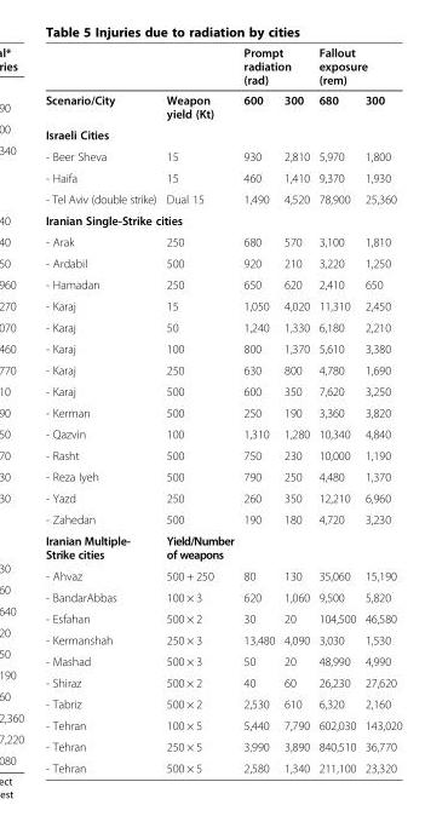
<table><thead><tr><td rowspan="2">Scenario/City</td><td rowspan="2">Weapon yield (Kt)</td><td colspan="2">Prompt radiation (rad)</td><td colspan="2">Fallout exposure (rem)</td></tr><tr><td>600</td><td>300</td><td>680</td><td>300</td></tr></thead><tbody><tr><td colspan="6">Israeli Cities</td></tr><tr><td>- Beer Sheva</td><td>15</td><td>930</td><td>2,810</td><td>5,970</td><td>1,800</td></tr><tr><td>- Haifa</td><td>15</td><td>460</td><td>1,410</td><td>9,370</td><td>1,930</td></tr><tr><td>- Tel Aviv (double strike)</td><td>Dual 15</td><td>1,490</td><td>4,520</td><td>78,900</td><td>25,360</td></tr><tr><td colspan="6">Iranian Single-Strike cities</td></tr><tr><td>- Arak</td><td>250</td><td>680</td><td>570</td><td>3,100</td><td>1,810</td></tr><tr><td>- Ardabil</td><td>500</td><td>920</td><td>210</td><td>3,220</td><td>1,250</td></tr><tr><td>- Hamadan</td><td>250</td><td>650</td><td>620</td><td>2,410</td><td>650</td></tr><tr><td>- Karaj</td><td>15</td><td>1,050</td><td>4,020</td><td>11,310</td><td>2,450</td></tr><tr><td>- Karaj</td><td>50</td><td>1,240</td><td>1,330</td><td>6,180</td><td>2,210</td></tr><tr><td>- Karaj</td><td>100</td><td>800</td><td>1,370</td><td>5,610</td><td>3,380</td></tr><tr><td>- Karaj</td><td>250</td><td>630</td><td>800</td><td>4,780</td><td>1,690</td></tr><tr><td>- Karaj</td><td>500</td><td>600</td><td>350</td><td>7,620</td><td>3,250</td></tr><tr><td>- Kerman</td><td>500</td><td>250</td><td>190</td><td>3,360</td><td>3,820</td></tr><tr><td>- Qazvin</td><td>100</td><td>1,310</td><td>1,280</td><td>10,340</td><td>4,840</td></tr><tr><td>- Rasht</td><td>500</td><td>750</td><td>230</td><td>10,000</td><td>1,190</td></tr><tr><td>- Reza Iyeh</td><td>500</td><td>790</td><td>250</td><td>4,480</td><td>1,370</td></tr><tr><td>- Yazd</td><td>250</td><td>260</td><td>350</td><td>12,210</td><td>6,960</td></tr><tr><td>- Zahedan</td><td>500</td><td>190</td><td>180</td><td>4,720</td><td>3,230</td></tr><tr><td>Iranian Multiple- Strike cities</td><td>Yield/Number of weapons</td><td></td><td></td><td></td><td></td></tr><tr><td>- Ahvaz</td><td>500 + 250</td><td>80</td><td>130</td><td>35,060</td><td>15,190</td></tr><tr><td>- BandarAbbas</td><td>100 × 3</td><td>620</td><td>1,060</td><td>9,500</td><td>5,820</td></tr><tr><td>- Esfahan</td><td>500 × 2</td><td>30</td><td>20</td><td>104,500</td><td>46,580</td></tr><tr><td>- Kermanshah</td><td>250 × 3</td><td>13,480</td><td>4,090</td><td>3,030</td><td>1,530</td></tr><tr><td>- Mashad</td><td>500 × 3</td><td>50</td><td>20</td><td>48,990</td><td>4,990</td></tr><tr><td>- Shiraz</td><td>500 × 2</td><td>40</td><td>60</td><td>26,230</td><td>27,620</td></tr><tr><td>- Tabriz</td><td>500 × 2</td><td>2,530</td><td>610</td><td>6,320</td><td>2,160</td></tr><tr><td>- Tehran</td><td>100 × 5</td><td>5,440</td><td>7,790</td><td>602,030</td><td>143,020</td></tr><tr><td>- Tehran</td><td>250 × 5</td><td>3,990</td><td>3,890</td><td>840,510</td><td>36,770</td></tr><tr><td>- Tehran</td><td>500 × 5</td><td>2,580</td><td>1,340</td><td>211,100</td><td>23,320</td></tr></tbody></table>